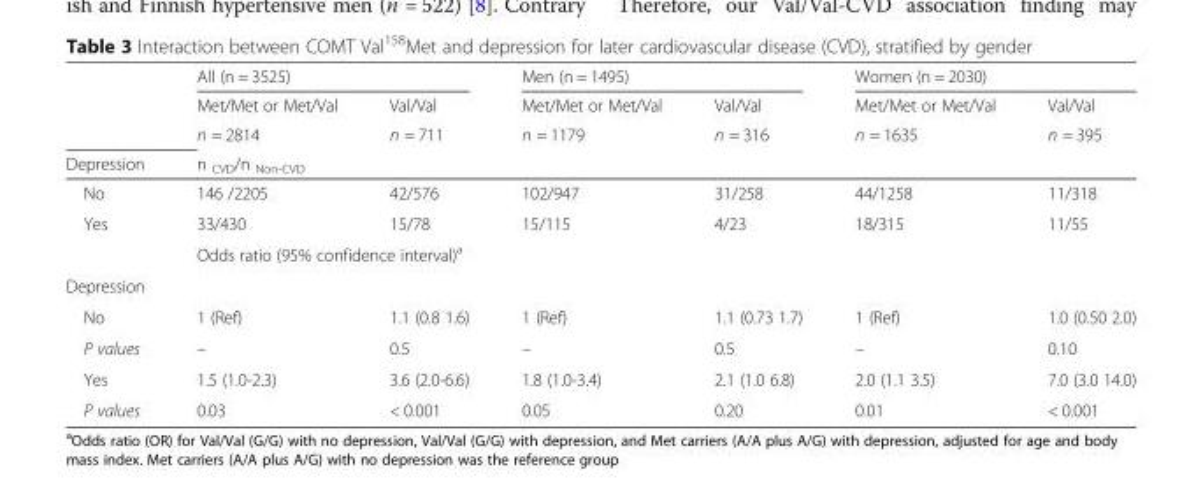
<table><thead><tr><td rowspan="4">Depression</td><td colspan="2">All (n = 3525)</td><td colspan="2">Men (n = 1495)</td><td colspan="2">Women (n = 2030)</td></tr><tr><td rowspan="2">Met/Met or Met/Val n = 2814</td><td rowspan="2">Val/Val n = 711</td><td rowspan="2">Met/Met or Met/Val n = 1179</td><td rowspan="2">Val/Val n = 316</td><td rowspan="2">Met/Met or Met/Val n = 1635</td><td rowspan="2">Val/Val n = 395</td></tr><tr></tr><tr><td colspan="6">n <sub>CVD</sub>/n <sub>Non-CVD</sub></td></tr></thead><tbody><tr><td>No</td><td>146 /2205</td><td>42/576</td><td>102/947</td><td>31/258</td><td>44/1258</td><td>11/318</td></tr><tr><td rowspan="2">Yes</td><td>33/430</td><td>15/78</td><td>15/115</td><td>4/23</td><td>18/315</td><td>11/55</td></tr><tr><td colspan="6">Odds ratio (95% confidence interval)<sup>a</sup></td></tr><tr><td colspan="7">Depression</td></tr><tr><td>No</td><td>1 (Ref)</td><td>1.1 (0.8 1.6)</td><td>1 (Ref)</td><td>1.1 (0.73 1.7)</td><td>1 (Ref)</td><td>1.0 (0.50 2.0)</td></tr><tr><td>P values</td><td>–</td><td>0.5</td><td>–</td><td>0.5</td><td>–</td><td>0.10</td></tr><tr><td>Yes</td><td>1.5 (1.0-2.3)</td><td>3.6 (2.0-6.6)</td><td>1.8 (1.0-3.4)</td><td>2.1 (1.0 6.8)</td><td>2.0 (1.1 3.5)</td><td>7.0 (3.0 14.0)</td></tr><tr><td>P values</td><td>0.03</td><td>&lt; 0.001</td><td>0.05</td><td>0.20</td><td>0.01</td><td>&lt; 0.001</td></tr></tbody></table>